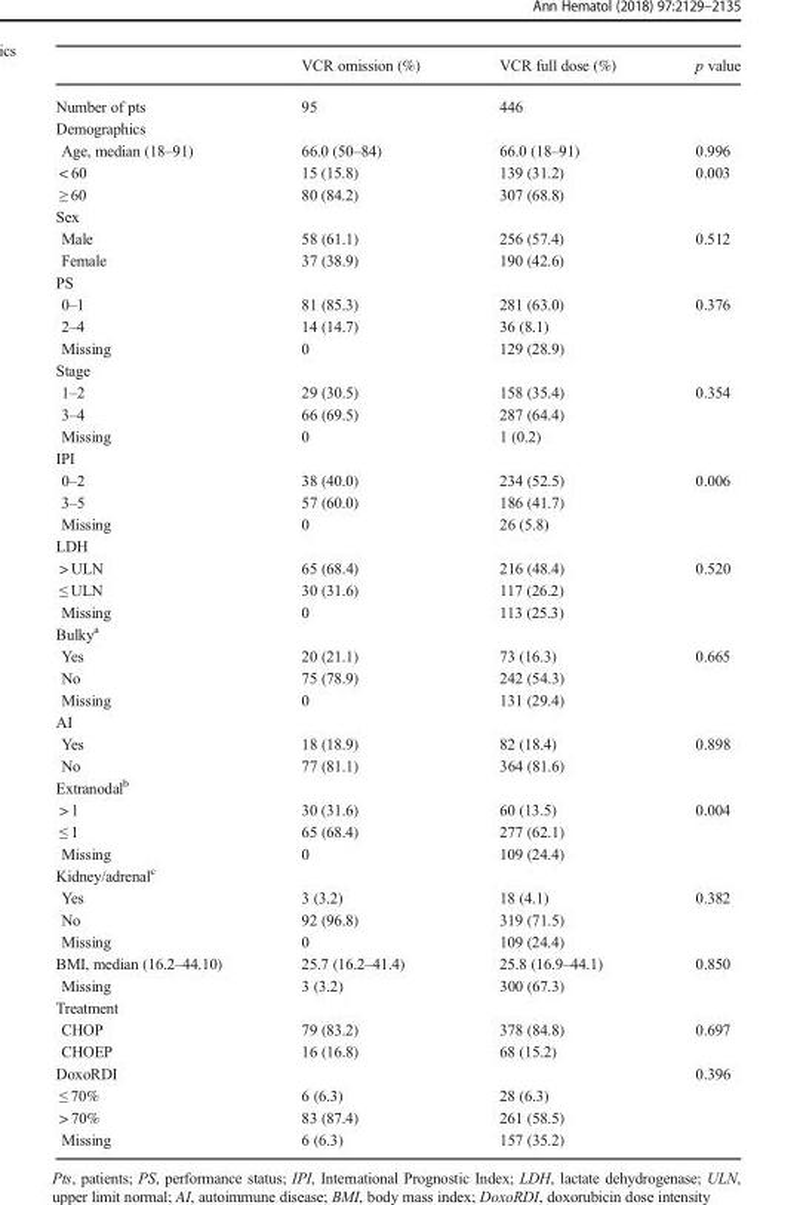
<table><thead><tr><td></td><td>VCR omission (%)</td><td>VCR full dose (%)</td><td>p value</td></tr></thead><tbody><tr><td>Number of pts</td><td>95</td><td>446</td><td></td></tr><tr><td colspan="4">Demographics</td></tr><tr><td>Age, median (18–91)</td><td>66.0 (50–84)</td><td>66.0 (18–91)</td><td>0.996</td></tr><tr><td>&lt; 60</td><td>15 (15.8)</td><td>139 (31.2)</td><td>0.003</td></tr><tr><td>≥ 60</td><td>80 (84.2)</td><td>307 (68.8)</td><td></td></tr><tr><td colspan="4">Sex</td></tr><tr><td>Male</td><td>58 (61.1)</td><td>256 (57.4)</td><td>0.512</td></tr><tr><td>Female</td><td>37 (38.9)</td><td>190 (42.6)</td><td></td></tr><tr><td colspan="4">PS</td></tr><tr><td>0–1</td><td>81 (85.3)</td><td>281 (63.0)</td><td>0.376</td></tr><tr><td>2–4</td><td>14 (14.7)</td><td>36 (8.1)</td><td></td></tr><tr><td>Missing</td><td>0</td><td>129 (28.9)</td><td></td></tr><tr><td colspan="4">Stage</td></tr><tr><td>1–2</td><td>29 (30.5)</td><td>158 (35.4)</td><td>0.354</td></tr><tr><td>3–4</td><td>66 (69.5)</td><td>287 (64.4)</td><td></td></tr><tr><td>Missing</td><td>0</td><td>1 (0.2)</td><td></td></tr><tr><td colspan="4">IPI</td></tr><tr><td>0–2</td><td>38 (40.0)</td><td>234 (52.5)</td><td>0.006</td></tr><tr><td>3–5</td><td>57 (60.0)</td><td>186 (41.7)</td><td></td></tr><tr><td>Missing</td><td>0</td><td>26 (5.8)</td><td></td></tr><tr><td colspan="4">LDH</td></tr><tr><td>&gt; ULN</td><td>65 (68.4)</td><td>216 (48.4)</td><td>0.520</td></tr><tr><td>≤ ULN</td><td>30 (31.6)</td><td>117 (26.2)</td><td></td></tr><tr><td>Missing</td><td>0</td><td>113 (25.3)</td><td></td></tr><tr><td colspan="4">Bulky<sup>a</sup></td></tr><tr><td>Yes</td><td>20 (21.1)</td><td>73 (16.3)</td><td>0.665</td></tr><tr><td>No</td><td>75 (78.9)</td><td>242 (54.3)</td><td></td></tr><tr><td>Missing</td><td>0</td><td>131 (29.4)</td><td></td></tr><tr><td colspan="4">AI</td></tr><tr><td>Yes</td><td>18 (18.9)</td><td>82 (18.4)</td><td>0.898</td></tr><tr><td>No</td><td>77 (81.1)</td><td>364 (81.6)</td><td></td></tr><tr><td colspan="4">Extranodal<sup>b</sup></td></tr><tr><td>&gt; 1</td><td>30 (31.6)</td><td>60 (13.5)</td><td>0.004</td></tr><tr><td>≤ 1</td><td>65 (68.4)</td><td>277 (62.1)</td><td></td></tr><tr><td>Missing</td><td>0</td><td>109 (24.4)</td><td></td></tr><tr><td colspan="4">Kidney/adrenal<sup>c</sup></td></tr><tr><td>Yes</td><td>3 (3.2)</td><td>18 (4.1)</td><td>0.382</td></tr><tr><td>No</td><td>92 (96.8)</td><td>319 (71.5)</td><td></td></tr><tr><td>Missing</td><td>0</td><td>109 (24.4)</td><td></td></tr><tr><td>BMI, median (16.2–44.10)</td><td>25.7 (16.2–41.4)</td><td>25.8 (16.9–44.1)</td><td>0.850</td></tr><tr><td>Missing</td><td>3 (3.2)</td><td>300 (67.3)</td><td></td></tr><tr><td colspan="4">Treatment</td></tr><tr><td>CHOP</td><td>79 (83.2)</td><td>378 (84.8)</td><td>0.697</td></tr><tr><td>CHOEP</td><td>16 (16.8)</td><td>68 (15.2)</td><td></td></tr><tr><td>DoxoRDI</td><td></td><td></td><td>0.396</td></tr><tr><td>≤ 70%</td><td>6 (6.3)</td><td>28 (6.3)</td><td></td></tr><tr><td>&gt; 70%</td><td>83 (87.4)</td><td>261 (58.5)</td><td></td></tr><tr><td>Missing</td><td>6 (6.3)</td><td>157 (35.2)</td><td></td></tr></tbody></table>